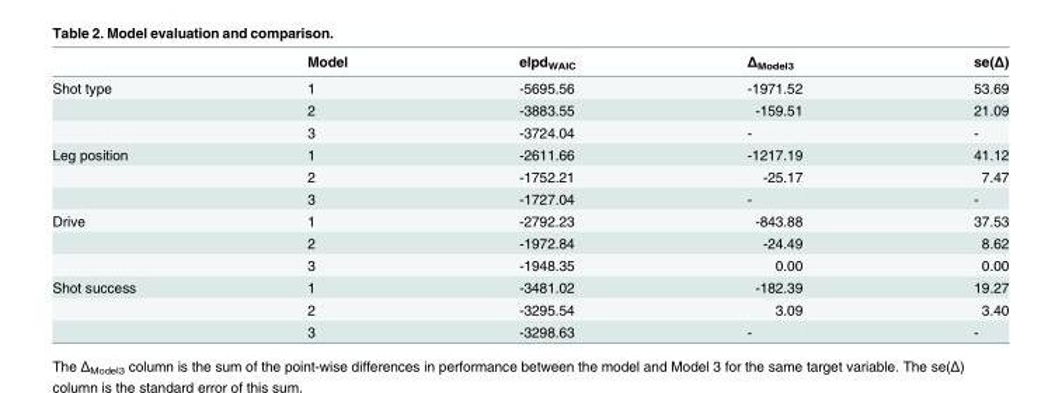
<table><thead><tr><td></td><td>Model</td><td>elpd<sub>WAIC</sub></td><td>Δ<sub>Model3</sub></td><td>se(Δ)</td></tr></thead><tbody><tr><td rowspan="3">Shot type</td><td>1</td><td>-5695.56</td><td>-1971.52</td><td>53.69</td></tr><tr><td>2</td><td>-3883.55</td><td>-159.51</td><td>21.09</td></tr><tr><td>3</td><td>-3724.04</td><td>-</td><td>-</td></tr><tr><td rowspan="3">Leg position</td><td>1</td><td>-2611.66</td><td>-1217.19</td><td>41.12</td></tr><tr><td>2</td><td>-1752.21</td><td>-25.17</td><td>7.47</td></tr><tr><td>3</td><td>-1727.04</td><td>-</td><td>-</td></tr><tr><td rowspan="3">Drive</td><td>1</td><td>-2792.23</td><td>-843.88</td><td>37.53</td></tr><tr><td>2</td><td>-1972.84</td><td>-24.49</td><td>8.62</td></tr><tr><td>3</td><td>-1948.35</td><td>0.00</td><td>0.00</td></tr><tr><td rowspan="3">Shot success</td><td>1</td><td>-3481.02</td><td>-182.39</td><td>19.27</td></tr><tr><td>2</td><td>-3295.54</td><td>3.09</td><td>3.40</td></tr><tr><td>3</td><td>-3298.63</td><td>-</td><td>-</td></tr></tbody></table>